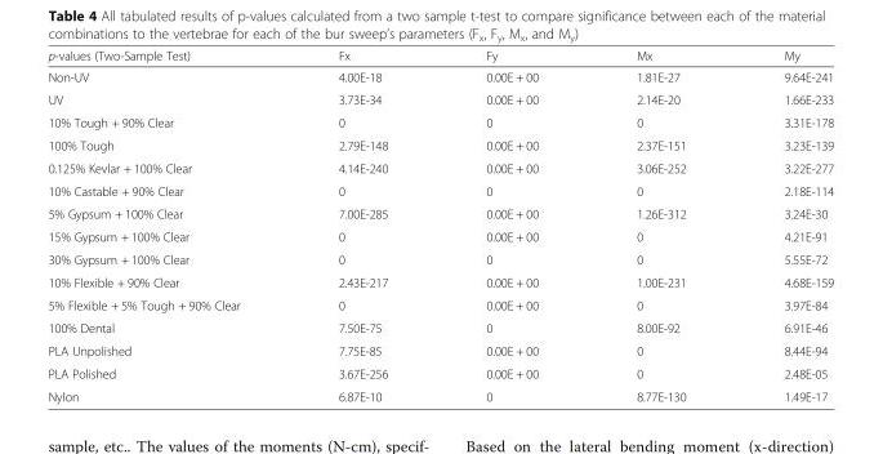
<table><thead><tr><td>p-values (Two-Sample Test)</td><td>Fx</td><td>Fy</td><td>Mx</td><td>My</td></tr></thead><tbody><tr><td>Non-UV</td><td>4.00E-18</td><td>0.00E + 00</td><td>1.81E-27</td><td>9.64E-241</td></tr><tr><td>UV</td><td>3.73E-34</td><td>0.00E + 00</td><td>2.14E-20</td><td>1.66E-233</td></tr><tr><td>10% Tough + 90% Clear</td><td>0</td><td>0</td><td>0</td><td>3.31E-178</td></tr><tr><td>100% Tough</td><td>2.79E-148</td><td>0.00E + 00</td><td>2.37E-151</td><td>3.23E-139</td></tr><tr><td>0.125% Kevlar + 100% Clear</td><td>4.14E-240</td><td>0.00E + 00</td><td>3.06E-252</td><td>3.22E-277</td></tr><tr><td>10% Castable + 90% Clear</td><td>0</td><td>0</td><td>0</td><td>2.18E-114</td></tr><tr><td>5% Gypsum + 100% Clear</td><td>7.00E-285</td><td>0.00E + 00</td><td>1.26E-312</td><td>3.24E-30</td></tr><tr><td>15% Gypsum + 100% Clear</td><td>0</td><td>0.00E + 00</td><td>0</td><td>4.21E-91</td></tr><tr><td>30% Gypsum + 100% Clear</td><td>0</td><td>0</td><td>0</td><td>5.55E-72</td></tr><tr><td>10% Flexible + 90% Clear</td><td>2.43E-217</td><td>0.00E + 00</td><td>1.00E-231</td><td>4.68E-159</td></tr><tr><td>5% Flexible + 5% Tough + 90% Clear</td><td>0</td><td>0.00E + 00</td><td>0</td><td>3.97E-84</td></tr><tr><td>100% Dental</td><td>7.50E-75</td><td>0</td><td>8.00E-92</td><td>6.91E-46</td></tr><tr><td>PLA Unpolished</td><td>7.75E-85</td><td>0.00E + 00</td><td>0</td><td>8.44E-94</td></tr><tr><td>PLA Polished</td><td>3.67E-256</td><td>0.00E + 00</td><td>0</td><td>2.48E-05</td></tr><tr><td>Nylon</td><td>6.87E-10</td><td>0</td><td>8.77E-130</td><td>1.49E-17</td></tr></tbody></table>